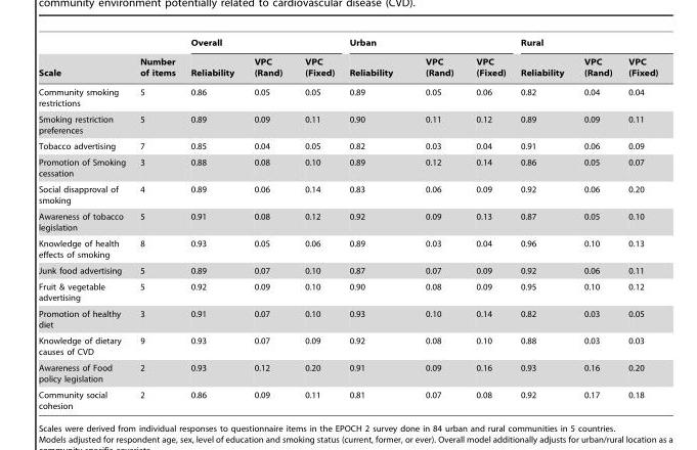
<table><thead><tr><td rowspan="2">Scale</td><td rowspan="2">Number of items</td><td colspan="3">Overall</td><td colspan="3">Urban</td><td colspan="3">Rural</td></tr><tr><td>Reliability</td><td>VPC (Rand)</td><td>VPC (Fixed)</td><td>Reliability</td><td>VPC (Rand)</td><td>VPC (Fixed)</td><td>Reliability</td><td>VPC (Rand)</td><td>VPC (Fixed)</td></tr></thead><tbody><tr><td>Community smoking restrictions</td><td>5</td><td>0.86</td><td>0.05</td><td>0.05</td><td>0.89</td><td>0.05</td><td>0.06</td><td>0.82</td><td>0.04</td><td>0.04</td></tr><tr><td>Smoking restriction preferences</td><td>5</td><td>0.89</td><td>0.09</td><td>0.11</td><td>0.90</td><td>0.11</td><td>0.12</td><td>0.89</td><td>0.09</td><td>0.11</td></tr><tr><td>Tobacco advertising</td><td>7</td><td>0.85</td><td>0.04</td><td>0.05</td><td>0.82</td><td>0.03</td><td>0.04</td><td>0.91</td><td>0.06</td><td>0.09</td></tr><tr><td>Promotion of Smoking cessation</td><td>3</td><td>0.88</td><td>0.08</td><td>0.10</td><td>0.89</td><td>0.12</td><td>0.14</td><td>0.86</td><td>0.05</td><td>0.07</td></tr><tr><td>Social disapproval of smoking</td><td>4</td><td>0.89</td><td>0.06</td><td>0.14</td><td>0.83</td><td>0.06</td><td>0.09</td><td>0.92</td><td>0.06</td><td>0.20</td></tr><tr><td>Awareness of tobacco legislation</td><td>5</td><td>0.91</td><td>0.08</td><td>0.12</td><td>0.92</td><td>0.09</td><td>0.13</td><td>0.87</td><td>0.05</td><td>0.10</td></tr><tr><td>Knowledge of health effects of smoking</td><td>8</td><td>0.93</td><td>0.05</td><td>0.06</td><td>0.89</td><td>0.03</td><td>0.04</td><td>0.96</td><td>0.10</td><td>0.13</td></tr><tr><td>Junk food advertising</td><td>5</td><td>0.89</td><td>0.07</td><td>0.10</td><td>0.87</td><td>0.07</td><td>0.09</td><td>0.92</td><td>0.06</td><td>0.11</td></tr><tr><td>Fruit &amp; vegetable advertising</td><td>5</td><td>0.92</td><td>0.09</td><td>0.10</td><td>0.90</td><td>0.08</td><td>0.09</td><td>0.95</td><td>0.10</td><td>0.12</td></tr><tr><td>Promotion of healthy diet</td><td>3</td><td>0.91</td><td>0.07</td><td>0.10</td><td>0.93</td><td>0.10</td><td>0.14</td><td>0.82</td><td>0.03</td><td>0.05</td></tr><tr><td>Knowledge of dietary causes of CVD</td><td>9</td><td>0.93</td><td>0.07</td><td>0.09</td><td>0.92</td><td>0.08</td><td>0.10</td><td>0.88</td><td>0.03</td><td>0.03</td></tr><tr><td>Awareness of Food policy legislation</td><td>2</td><td>0.93</td><td>0.12</td><td>0.20</td><td>0.91</td><td>0.09</td><td>0.16</td><td>0.93</td><td>0.16</td><td>0.20</td></tr><tr><td>Community social cohesion</td><td>2</td><td>0.86</td><td>0.09</td><td>0.11</td><td>0.81</td><td>0.07</td><td>0.08</td><td>0.92</td><td>0.17</td><td>0.18</td></tr></tbody></table>